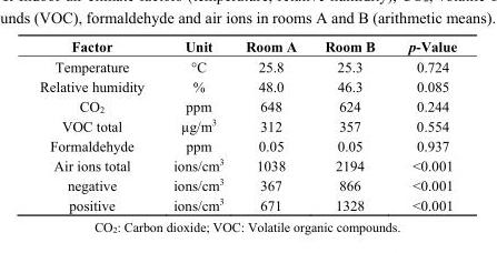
<table><thead><tr><td>Factor</td><td>Unit</td><td>Room A</td><td>Room B</td><td>p-Value</td></tr></thead><tbody><tr><td>Temperature</td><td>°C</td><td>25.8</td><td>25.3</td><td>0.724</td></tr><tr><td>Relative humidity</td><td>%</td><td>48.0</td><td>46.3</td><td>0.085</td></tr><tr><td>CO<sub>2</sub></td><td>ppm</td><td>648</td><td>624</td><td>0.244</td></tr><tr><td>VOC total</td><td>µg/m<sup>3</sup></td><td>312</td><td>357</td><td>0.554</td></tr><tr><td>Formaldehyde</td><td>ppm</td><td>0.05</td><td>0.05</td><td>0.937</td></tr><tr><td>Air ions total</td><td>ions/cm<sup>3</sup></td><td>1038</td><td>2194</td><td>&lt;0.001</td></tr><tr><td>negative</td><td>ions/cm<sup>3</sup></td><td>367</td><td>866</td><td>&lt;0.001</td></tr><tr><td>positive</td><td>ions/cm<sup>3</sup></td><td>671</td><td>1328</td><td>&lt;0.001</td></tr></tbody></table>